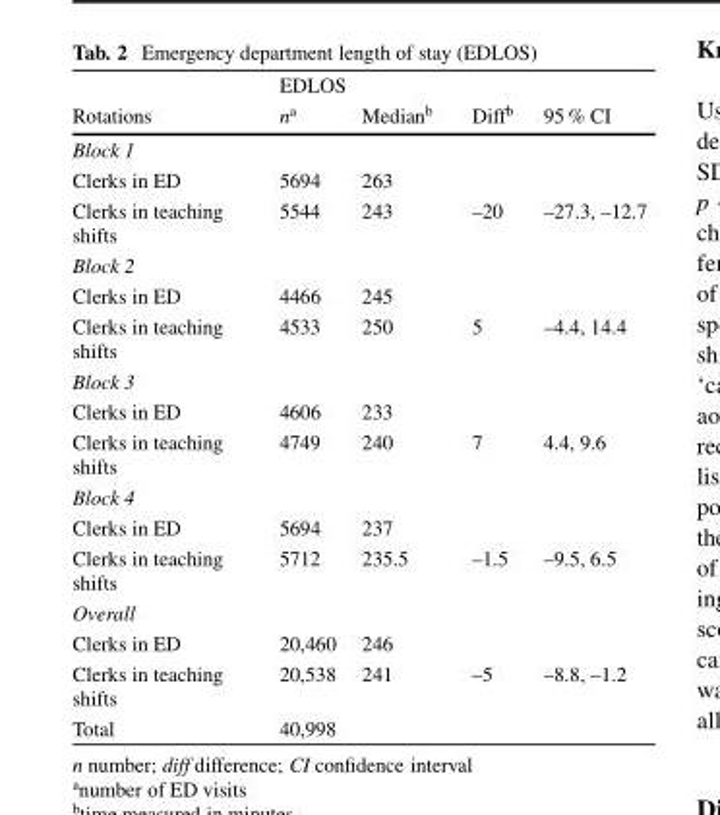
<table><thead><tr><td rowspan="2">Rotations</td><td colspan="4">EDLOS</td></tr><tr><td>n<sup>a</sup></td><td>Median<sup>b</sup></td><td>Diff<sup>b</sup></td><td>95 % CI</td></tr></thead><tbody><tr><td colspan="5">Block 1</td></tr><tr><td>Clerks in ED</td><td>5694</td><td>263</td><td></td><td></td></tr><tr><td>Clerks in teaching shifts</td><td>5544</td><td>243</td><td>–20</td><td>–27.3, –12.7</td></tr><tr><td colspan="5">Block 2</td></tr><tr><td>Clerks in ED</td><td>4466</td><td>245</td><td></td><td></td></tr><tr><td>Clerks in teaching shifts</td><td>4533</td><td>250</td><td>5</td><td>–4.4, 14.4</td></tr><tr><td colspan="5">Block 3</td></tr><tr><td>Clerks in ED</td><td>4606</td><td>233</td><td></td><td></td></tr><tr><td>Clerks in teaching shifts</td><td>4749</td><td>240</td><td>7</td><td>4.4, 9.6</td></tr><tr><td colspan="5">Block 4</td></tr><tr><td>Clerks in ED</td><td>5694</td><td>237</td><td></td><td></td></tr><tr><td>Clerks in teaching shifts</td><td>5712</td><td>235.5</td><td>–1.5</td><td>–9.5, 6.5</td></tr><tr><td colspan="5">Overall</td></tr><tr><td>Clerks in ED</td><td>20,460</td><td>246</td><td></td><td></td></tr><tr><td>Clerks in teaching shifts</td><td>20,538</td><td>241</td><td>–5</td><td>–8.8, –1.2</td></tr><tr><td>Total</td><td>40,998</td><td></td><td></td><td></td></tr></tbody></table>